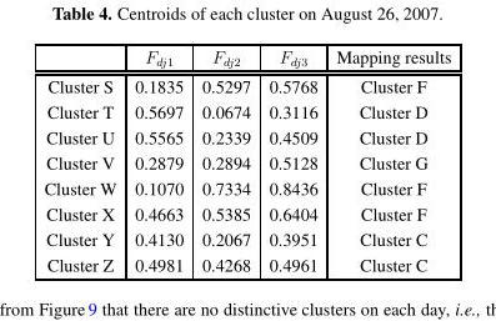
<table><thead><tr><td></td><td>퐹푑푗1</td><td>퐹푑푗2</td><td>퐹푑푗3</td><td>Mapping results</td></tr></thead><tbody><tr><td>Cluster S</td><td>0.1835</td><td>0.5297</td><td>0.5768</td><td>Cluster F</td></tr><tr><td>Cluster T</td><td>0.5697</td><td>0.0674</td><td>0.3116</td><td>Cluster D</td></tr><tr><td>Cluster U</td><td>0.5565</td><td>0.2339</td><td>0.4509</td><td>Cluster D</td></tr><tr><td>Cluster V</td><td>0.2879</td><td>0.2894</td><td>0.5128</td><td>Cluster G</td></tr><tr><td>Cluster W</td><td>0.1070</td><td>0.7334</td><td>0.8436</td><td>Cluster F</td></tr><tr><td>Cluster X</td><td>0.4663</td><td>0.5385</td><td>0.6404</td><td>Cluster F</td></tr><tr><td>Cluster Y</td><td>0.4130</td><td>0.2067</td><td>0.3951</td><td>Cluster C</td></tr><tr><td>Cluster Z</td><td>0.4981</td><td>0.4268</td><td>0.4961</td><td>Cluster C</td></tr></tbody></table>